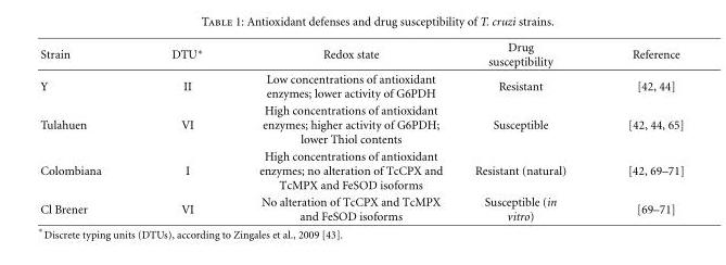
<table><thead><tr><td>Strain</td><td>DTU∗</td><td>Redox state</td><td>Drug susceptibility</td><td>Reference</td></tr></thead><tbody><tr><td>Y</td><td>II</td><td>Low concentrations of antioxidant enzymes; lower activity of G6PDH</td><td>Resistant</td><td>[42, 44]</td></tr><tr><td>Tulahuen</td><td>VI</td><td>High concentrations of antioxidant enzymes; higher activity of G6PDH; lower Thiol contents</td><td>Susceptible</td><td>[42, 44, 65]</td></tr><tr><td>Colombiana</td><td>I</td><td>High concentrations of antioxidant enzymes; no alteration of TcCPX and TcMPX and FeSOD isoforms</td><td>Resistant (natural)</td><td>[42, 69–71]</td></tr><tr><td>Cl Brener</td><td>VI</td><td>No alteration of TcCPX and TcMPX and FeSOD isoforms</td><td>Susceptible (in vitro)</td><td>[69–71]</td></tr></tbody></table>